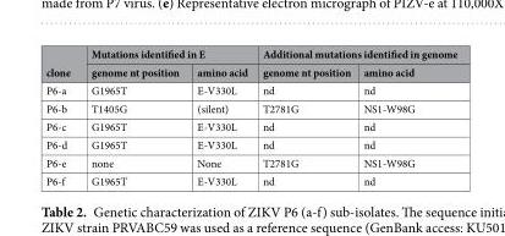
<table><thead><tr><td rowspan="2">clone</td><td colspan="2">Mutations identified in E</td><td colspan="2">Additional mutations identified in genome</td></tr><tr><td>genome nt position</td><td>amino acid</td><td>genome nt position</td><td>amino acid</td></tr></thead><tbody><tr><td>P6-a</td><td>G1965T</td><td>E-V330L</td><td>nd</td><td>nd</td></tr><tr><td>P6-b</td><td>T1405G</td><td>(silent)</td><td>T2781G</td><td>NS1-W98G</td></tr><tr><td>P6-c</td><td>G1965T</td><td>E-V330L</td><td>nd</td><td>nd</td></tr><tr><td>P6-d</td><td>G1965T</td><td>E-V330L</td><td>nd</td><td>nd</td></tr><tr><td>P6-e</td><td>none</td><td>None</td><td>T2781G</td><td>NS1-W98G</td></tr><tr><td>P6-f</td><td>G1965T</td><td>E-V330L</td><td>nd</td><td>nd</td></tr></tbody></table>